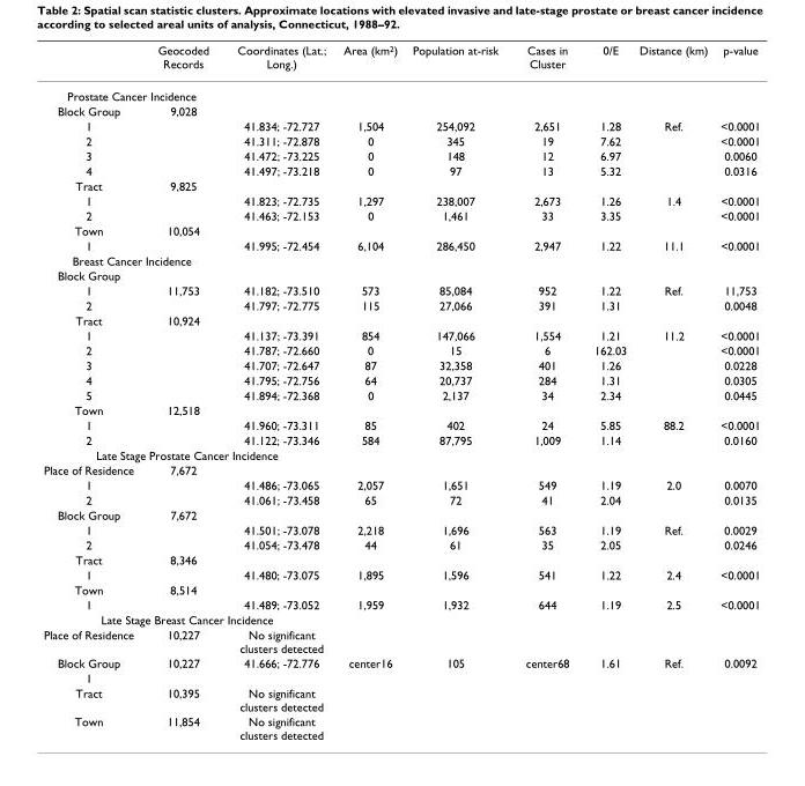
<table><thead><tr><td></td><td>Geocoded Records</td><td>Coordinates (Lat.; Long.)</td><td>Area (km<sup>2</sup>)</td><td>Population at-risk</td><td>Cases in Cluster</td><td>0/E</td><td>Distance (km)</td><td>p-value</td></tr></thead><tbody><tr><td colspan="9">Prostate Cancer Incidence</td></tr><tr><td>Block Group</td><td>9,028</td><td></td><td></td><td></td><td></td><td></td><td></td><td></td></tr><tr><td>1</td><td></td><td>41.834; -72.727</td><td>1,504</td><td>254,092</td><td>2,651</td><td>1.28</td><td>Ref.</td><td>&lt;0.0001</td></tr><tr><td>2</td><td></td><td>41.311; -72.878</td><td>0</td><td>345</td><td>19</td><td>7.62</td><td></td><td>&lt;0.0001</td></tr><tr><td>3</td><td></td><td>41.472; -73.225</td><td>0</td><td>148</td><td>12</td><td>6.97</td><td></td><td>0.0060</td></tr><tr><td>4</td><td></td><td>41.497; -73.218</td><td>0</td><td>97</td><td>13</td><td>5.32</td><td></td><td>0.0316</td></tr><tr><td>Tract</td><td>9,825</td><td></td><td></td><td></td><td></td><td></td><td></td><td></td></tr><tr><td>1</td><td></td><td>41.823; -72.735</td><td>1,297</td><td>238,007</td><td>2,673</td><td>1.26</td><td>1.4</td><td>&lt;0.0001</td></tr><tr><td>2</td><td></td><td>41.463; -72.153</td><td>0</td><td>1,461</td><td>33</td><td>3.35</td><td></td><td>&lt;0.0001</td></tr><tr><td>Town</td><td>10,054</td><td></td><td></td><td></td><td></td><td></td><td></td><td></td></tr><tr><td>1</td><td></td><td>41.995; -72.454</td><td>6,104</td><td>286,450</td><td>2,947</td><td>1.22</td><td>11.1</td><td>&lt;0.0001</td></tr><tr><td colspan="9">Breast Cancer Incidence</td></tr><tr><td colspan="9">Block Group</td></tr><tr><td>1</td><td>11,753</td><td>41.182; -73.510</td><td>573</td><td>85,084</td><td>952</td><td>1.22</td><td>Ref.</td><td>11,753</td></tr><tr><td>2</td><td></td><td>41.797; -72.775</td><td>115</td><td>27,066</td><td>391</td><td>1.31</td><td></td><td>0.0048</td></tr><tr><td>Tract</td><td>10,924</td><td></td><td></td><td></td><td></td><td></td><td></td><td></td></tr><tr><td>1</td><td></td><td>41.137; -73.391</td><td>854</td><td>147,066</td><td>1,554</td><td>1.21</td><td>11.2</td><td>&lt;0.0001</td></tr><tr><td>2</td><td></td><td>41.787; -72.660</td><td>0</td><td>15</td><td>6</td><td>162.03</td><td></td><td>&lt;0.0001</td></tr><tr><td>3</td><td></td><td>41.707; -72.647</td><td>87</td><td>32,358</td><td>401</td><td>1.26</td><td></td><td>0.0228</td></tr><tr><td>4</td><td></td><td>41.795; -72.756</td><td>64</td><td>20,737</td><td>284</td><td>1.31</td><td></td><td>0.0305</td></tr><tr><td>5</td><td></td><td>41.894; -72.368</td><td>0</td><td>2,137</td><td>34</td><td>2.34</td><td></td><td>0.0445</td></tr><tr><td>Town</td><td>12,518</td><td></td><td></td><td></td><td></td><td></td><td></td><td></td></tr><tr><td>1</td><td></td><td>41.960; -73.311</td><td>85</td><td>402</td><td>24</td><td>5.85</td><td>88.2</td><td>&lt;0.0001</td></tr><tr><td>2</td><td></td><td>41.122; -73.346</td><td>584</td><td>87,795</td><td>1,009</td><td>1.14</td><td></td><td>0.0160</td></tr><tr><td colspan="9">Late Stage Prostate Cancer Incidence</td></tr><tr><td>Place of Residence</td><td>7,672</td><td></td><td></td><td></td><td></td><td></td><td></td><td></td></tr><tr><td>1</td><td></td><td>41.486; -73.065</td><td>2,057</td><td>1,651</td><td>549</td><td>1.19</td><td>2.0</td><td>0.0070</td></tr><tr><td>2</td><td></td><td>41.061; -73.458</td><td>65</td><td>72</td><td>41</td><td>2.04</td><td></td><td>0.0135</td></tr><tr><td>Block Group</td><td>7,672</td><td></td><td></td><td></td><td></td><td></td><td></td><td></td></tr><tr><td>1</td><td></td><td>41.501; -73.078</td><td>2,218</td><td>1,696</td><td>563</td><td>1.19</td><td>Ref.</td><td>0.0029</td></tr><tr><td>2</td><td></td><td>41.054; -73.478</td><td>44</td><td>61</td><td>35</td><td>2.05</td><td></td><td>0.0246</td></tr><tr><td>Tract</td><td>8,346</td><td></td><td></td><td></td><td></td><td></td><td></td><td></td></tr><tr><td>1</td><td></td><td>41.480; -73.075</td><td>1,895</td><td>1,596</td><td>541</td><td>1.22</td><td>2.4</td><td>&lt;0.0001</td></tr><tr><td>Town</td><td>8,514</td><td></td><td></td><td></td><td></td><td></td><td></td><td></td></tr><tr><td>1</td><td></td><td>41.489; -73.052</td><td>1,959</td><td>1,932</td><td>644</td><td>1.19</td><td>2.5</td><td>&lt;0.0001</td></tr><tr><td colspan="9">Late Stage Breast Cancer Incidence</td></tr><tr><td>Place of Residence</td><td>10,227</td><td>No significant clusters detected</td><td></td><td></td><td></td><td></td><td></td><td></td></tr><tr><td>Block Group</td><td>10,227</td><td>41.666; -72.776</td><td>center16</td><td>105</td><td>center68</td><td>1.61</td><td>Ref.</td><td>0.0092</td></tr><tr><td colspan="9">1</td></tr><tr><td>Tract</td><td>10,395</td><td>No significant clusters detected</td><td></td><td></td><td></td><td></td><td></td><td></td></tr><tr><td>Town</td><td>11,854</td><td>No significant clusters detected</td><td></td><td></td><td></td><td></td><td></td><td></td></tr></tbody></table>